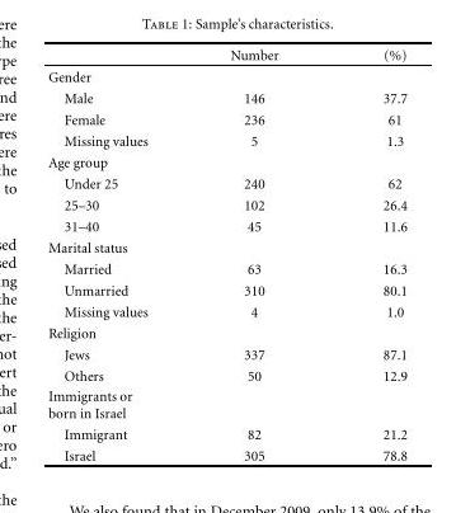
<table><thead><tr><td></td><td>Number</td><td>(%)</td></tr></thead><tbody><tr><td colspan="3">Gender</td></tr><tr><td>Male</td><td>146</td><td>37.7</td></tr><tr><td>Female</td><td>236</td><td>61</td></tr><tr><td>Missing values</td><td>5</td><td>1.3</td></tr><tr><td colspan="3">Age group</td></tr><tr><td>Under 25</td><td>240</td><td>62</td></tr><tr><td>25–30</td><td>102</td><td>26.4</td></tr><tr><td>31–40</td><td>45</td><td>11.6</td></tr><tr><td colspan="3">Marital status</td></tr><tr><td>Married</td><td>63</td><td>16.3</td></tr><tr><td>Unmarried</td><td>310</td><td>80.1</td></tr><tr><td>Missing values</td><td>4</td><td>1.0</td></tr><tr><td colspan="3">Religion</td></tr><tr><td>Jews</td><td>337</td><td>87.1</td></tr><tr><td>Others</td><td>50</td><td>12.9</td></tr><tr><td colspan="3">Immigrants or born in Israel</td></tr><tr><td>Immigrant</td><td>82</td><td>21.2</td></tr><tr><td>Israel</td><td>305</td><td>78.8</td></tr></tbody></table>